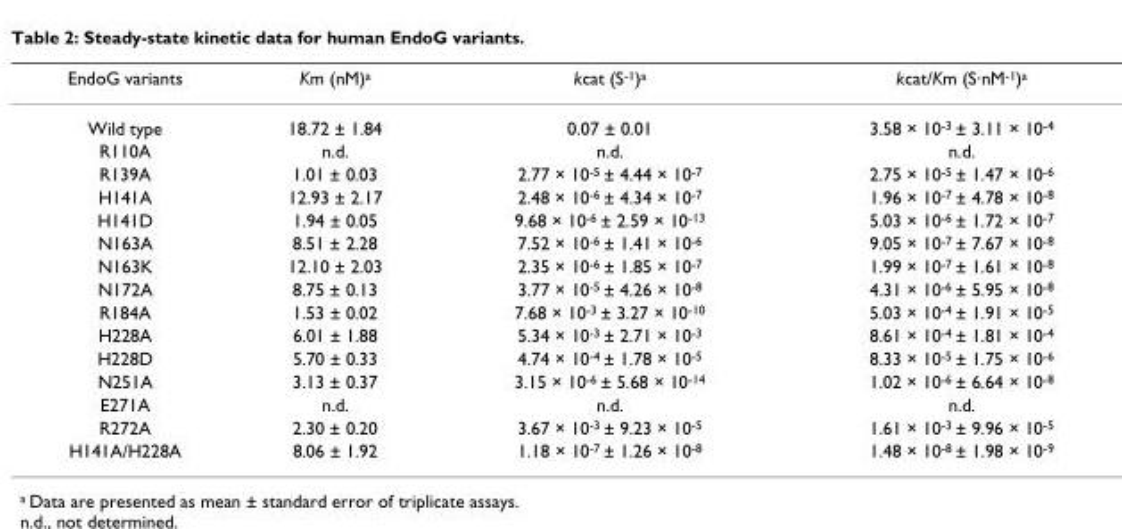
<table><thead><tr><td>EndoG variants</td><td>Km (nM)<sup>a</sup></td><td>kcat (S<sup>-1</sup>)<sup>a</sup></td><td>kcat/Km (S·nM<sup>-1</sup>)<sup>a</sup></td></tr></thead><tbody><tr><td>Wild type</td><td>18.72 ± 1.84</td><td>0.07 ± 0.01</td><td>3.58 × 10<sup>-3</sup> ± 3.11 × 10<sup>-4</sup></td></tr><tr><td>R110A</td><td>n.d.</td><td>n.d.</td><td>n.d.</td></tr><tr><td>R139A</td><td>1.01 ± 0.03</td><td>2.77 × 10<sup>-5</sup> ± 4.44 × 10<sup>-7</sup></td><td>2.75 × 10<sup>-5</sup> ± 1.47 × 10<sup>-6</sup></td></tr><tr><td>H141A</td><td>12.93 ± 2.17</td><td>2.48 × 10<sup>-6</sup> ± 4.34 × 10<sup>-7</sup></td><td>1.96 × 10<sup>-7</sup> ± 4.78 × 10<sup>-8</sup></td></tr><tr><td>H141D</td><td>1.94 ± 0.05</td><td>9.68 × 10<sup>-6</sup> ± 2.59 × 10<sup>-13</sup></td><td>5.03 × 10<sup>-6</sup> ± 1.72 × 10<sup>-7</sup></td></tr><tr><td>N163A</td><td>8.51 ± 2.28</td><td>7.52 × 10<sup>-6</sup> ± 1.41 × 10<sup>-6</sup></td><td>9.05 × 10<sup>-7</sup> ± 7.67 × 10<sup>-8</sup></td></tr><tr><td>N163K</td><td>12.10 ± 2.03</td><td>2.35 × 10<sup>-6</sup> ± 1.85 × 10<sup>-7</sup></td><td>1.99 × 10<sup>-7</sup> ± 1.61 × 10<sup>-8</sup></td></tr><tr><td>N172A</td><td>8.75 ± 0.13</td><td>3.77 × 10<sup>-5</sup> ± 4.26 × 10<sup>-8</sup></td><td>4.31 × 10<sup>-6</sup> ± 5.95 × 10<sup>-8</sup></td></tr><tr><td>R184A</td><td>1.53 ± 0.02</td><td>7.68 × 10<sup>-3</sup> ± 3.27 × 10<sup>-10</sup></td><td>5.03 × 10<sup>-4</sup> ± 1.91 × 10<sup>-5</sup></td></tr><tr><td>H228A</td><td>6.01 ± 1.88</td><td>5.34 × 10<sup>-3</sup> ± 2.71 × 10<sup>-3</sup></td><td>8.61 × 10<sup>-4</sup> ± 1.81 × 10<sup>-4</sup></td></tr><tr><td>H228D</td><td>5.70 ± 0.33</td><td>4.74 × 10<sup>-4</sup> ± 1.78 × 10<sup>-5</sup></td><td>8.33 × 10<sup>-5</sup> ± 1.75 × 10<sup>-6</sup></td></tr><tr><td>N251A</td><td>3.13 ± 0.37</td><td>3.15 × 10<sup>-6</sup> ± 5.68 × 10<sup>-14</sup></td><td>1.02 × 10<sup>-6</sup> ± 6.64 × 10<sup>-8</sup></td></tr><tr><td>E271A</td><td>n.d.</td><td>n.d.</td><td>n.d.</td></tr><tr><td>R272A</td><td>2.30 ± 0.20</td><td>3.67 × 10<sup>-3</sup> ± 9.23 × 10<sup>-5</sup></td><td>1.61 × 10<sup>-3</sup> ± 9.96 × 10<sup>-5</sup></td></tr><tr><td>H141A/H228A</td><td>8.06 ± 1.92</td><td>1.18 × 10<sup>-7</sup> ± 1.26 × 10<sup>-8</sup></td><td>1.48 × 10<sup>-8</sup> ± 1.98 × 10<sup>-9</sup></td></tr></tbody></table>